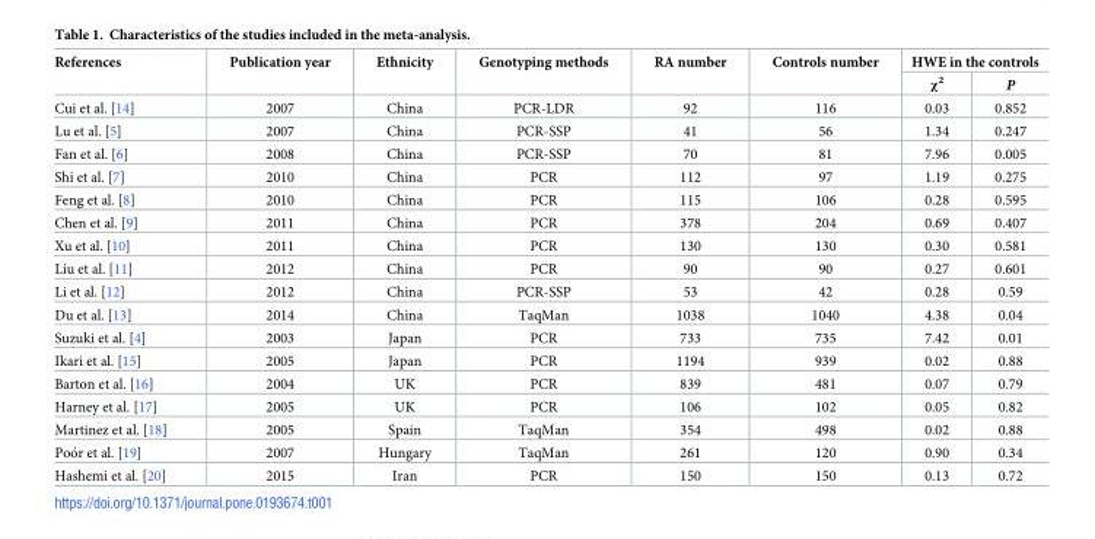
<table><thead><tr><td rowspan="2">References</td><td rowspan="2">Publication year</td><td rowspan="2">Ethnicity</td><td rowspan="2">Genotyping methods</td><td rowspan="2">RA number</td><td rowspan="2">Controls number</td><td colspan="2">HWE in the controls</td></tr><tr><td>χ<sup>2</sup></td><td>P</td></tr></thead><tbody><tr><td>Cui et al. [14]</td><td>2007</td><td>China</td><td>PCR-LDR</td><td>92</td><td>116</td><td>0.03</td><td>0.852</td></tr><tr><td>Lu et al. [5]</td><td>2007</td><td>China</td><td>PCR-SSP</td><td>41</td><td>56</td><td>1.34</td><td>0.247</td></tr><tr><td>Fan et al. [6]</td><td>2008</td><td>China</td><td>PCR-SSP</td><td>70</td><td>81</td><td>7.96</td><td>0.005</td></tr><tr><td>Shi et al. [7]</td><td>2010</td><td>China</td><td>PCR</td><td>112</td><td>97</td><td>1.19</td><td>0.275</td></tr><tr><td>Feng et al. [8]</td><td>2010</td><td>China</td><td>PCR</td><td>115</td><td>106</td><td>0.28</td><td>0.595</td></tr><tr><td>Chen et al. [9]</td><td>2011</td><td>China</td><td>PCR</td><td>378</td><td>204</td><td>0.69</td><td>0.407</td></tr><tr><td>Xu et al. [10]</td><td>2011</td><td>China</td><td>PCR</td><td>130</td><td>130</td><td>0.30</td><td>0.581</td></tr><tr><td>Liu et al. [11]</td><td>2012</td><td>China</td><td>PCR</td><td>90</td><td>90</td><td>0.27</td><td>0.601</td></tr><tr><td>Li et al. [12]</td><td>2012</td><td>China</td><td>PCR-SSP</td><td>53</td><td>42</td><td>0.28</td><td>0.59</td></tr><tr><td>Du et al. [13]</td><td>2014</td><td>China</td><td>TaqMan</td><td>1038</td><td>1040</td><td>4.38</td><td>0.04</td></tr><tr><td>Suzuki et al. [4]</td><td>2003</td><td>Japan</td><td>PCR</td><td>733</td><td>735</td><td>7.42</td><td>0.01</td></tr><tr><td>Ikari et al. [15]</td><td>2005</td><td>Japan</td><td>PCR</td><td>1194</td><td>939</td><td>0.02</td><td>0.88</td></tr><tr><td>Barton et al. [16]</td><td>2004</td><td>UK</td><td>PCR</td><td>839</td><td>481</td><td>0.07</td><td>0.79</td></tr><tr><td>Harney et al. [17]</td><td>2005</td><td>UK</td><td>PCR</td><td>106</td><td>102</td><td>0.05</td><td>0.82</td></tr><tr><td>Martinez et al. [18]</td><td>2005</td><td>Spain</td><td>TaqMan</td><td>354</td><td>498</td><td>0.02</td><td>0.88</td></tr><tr><td>Poo´r et al. [19]</td><td>2007</td><td>Hungary</td><td>TaqMan</td><td>261</td><td>120</td><td>0.90</td><td>0.34</td></tr><tr><td>Hashemi et al. [20]</td><td>2015</td><td>Iran</td><td>PCR</td><td>150</td><td>150</td><td>0.13</td><td>0.72</td></tr></tbody></table>